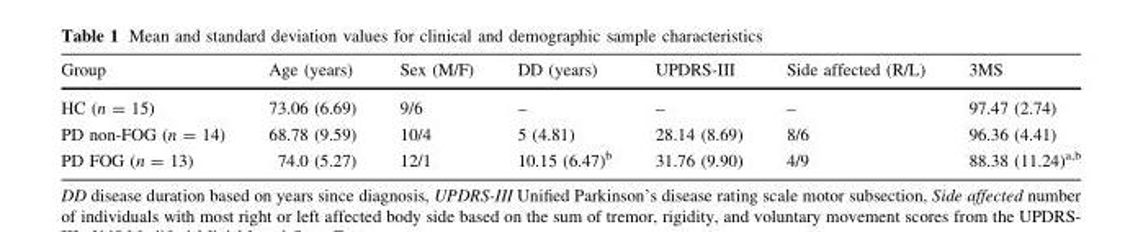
<table><thead><tr><td>Group</td><td>Age (years)</td><td>Sex (M/F)</td><td>DD (years)</td><td>UPDRS-III</td><td>Side affected (R/L)</td><td>3MS</td></tr></thead><tbody><tr><td>HC (n = 15)</td><td>73.06 (6.69)</td><td>9/6</td><td>–</td><td>–</td><td>–</td><td>97.47 (2.74)</td></tr><tr><td>PD non-FOG (n = 14)</td><td>68.78 (9.59)</td><td>10/4</td><td>5 (4.81)</td><td>28.14 (8.69)</td><td>8/6</td><td>96.36 (4.41)</td></tr><tr><td>PD FOG (n = 13)</td><td>74.0 (5.27)</td><td>12/1</td><td>10.15 (6.47)<sup>b</sup></td><td>31.76 (9.90)</td><td>4/9</td><td>88.38 (11.24)<sup>a,b</sup></td></tr></tbody></table>